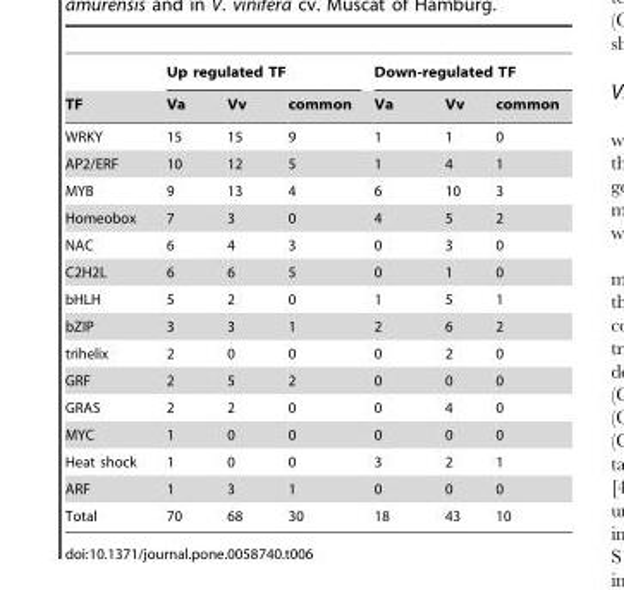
<table><thead><tr><td rowspan="2">TF</td><td colspan="3">Up regulated TF</td><td colspan="3">Down-regulated TF</td></tr><tr><td>Va</td><td>Vv</td><td>common</td><td>Va</td><td>Vv</td><td>common</td></tr></thead><tbody><tr><td>WRKY</td><td>15</td><td>15</td><td>9</td><td>1</td><td>1</td><td>0</td></tr><tr><td>AP2/ERF</td><td>10</td><td>12</td><td>5</td><td>1</td><td>4</td><td>1</td></tr><tr><td>MYB</td><td>9</td><td>13</td><td>4</td><td>6</td><td>10</td><td>3</td></tr><tr><td>Homeobox</td><td>7</td><td>3</td><td>0</td><td>4</td><td>5</td><td>2</td></tr><tr><td>NAC</td><td>6</td><td>4</td><td>3</td><td>0</td><td>3</td><td>0</td></tr><tr><td>C2H2L</td><td>6</td><td>6</td><td>5</td><td>0</td><td>1</td><td>0</td></tr><tr><td>bHLH</td><td>5</td><td>2</td><td>0</td><td>1</td><td>5</td><td>1</td></tr><tr><td>bZIP</td><td>3</td><td>3</td><td>1</td><td>2</td><td>6</td><td>2</td></tr><tr><td>trihelix</td><td>2</td><td>0</td><td>0</td><td>0</td><td>2</td><td>0</td></tr><tr><td>GRF</td><td>2</td><td>5</td><td>2</td><td>0</td><td>0</td><td>0</td></tr><tr><td>GRAS</td><td>2</td><td>2</td><td>0</td><td>0</td><td>4</td><td>0</td></tr><tr><td>MYC</td><td>1</td><td>0</td><td>0</td><td>0</td><td>0</td><td>0</td></tr><tr><td>Heat shock</td><td>1</td><td>0</td><td>0</td><td>3</td><td>2</td><td>1</td></tr><tr><td>ARF</td><td>1</td><td>3</td><td>1</td><td>0</td><td>0</td><td>0</td></tr><tr><td>Total</td><td>70</td><td>68</td><td>30</td><td>18</td><td>43</td><td>10</td></tr></tbody></table>